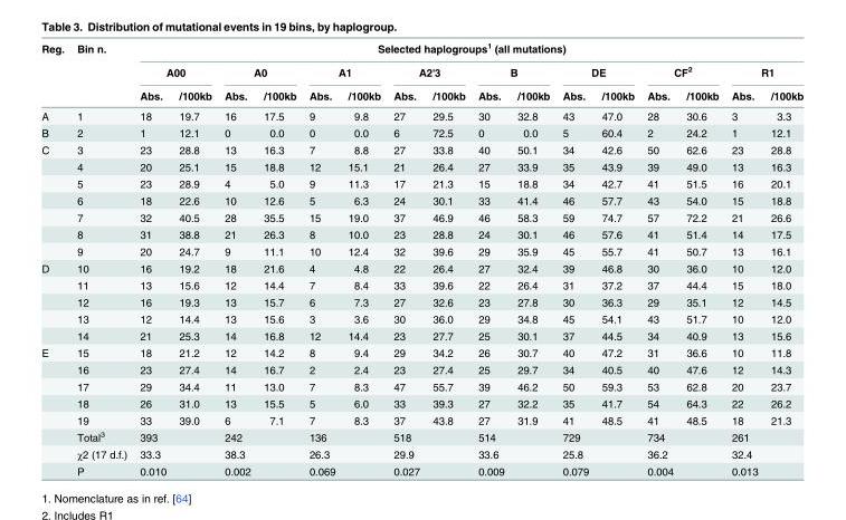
<table><thead><tr><td rowspan="3">Reg.</td><td rowspan="3">Bin n.</td><td colspan="16">Selected haplogroups<sup>1</sup> (all mutations)</td></tr><tr><td colspan="2">A00</td><td colspan="2">A0</td><td colspan="2">A1</td><td colspan="2">A2&#x27;3</td><td colspan="2">B</td><td colspan="2">DE</td><td colspan="2">CF<sup>2</sup></td><td colspan="2">R1</td></tr><tr><td>Abs.</td><td>/100kb</td><td>Abs.</td><td>/100kb</td><td>Abs.</td><td>/100kb</td><td>Abs.</td><td>/100kb</td><td>Abs.</td><td>/100kb</td><td>Abs.</td><td>/100kb</td><td>Abs.</td><td>/100kb</td><td>Abs.</td><td>/100kb</td></tr></thead><tbody><tr><td>A</td><td>1</td><td>18</td><td>19.7</td><td>16</td><td>17.5</td><td>9</td><td>9.8</td><td>27</td><td>29.5</td><td>30</td><td>32.8</td><td>43</td><td>47.0</td><td>28</td><td>30.6</td><td>3</td><td>3.3</td></tr><tr><td>B</td><td>2</td><td>1</td><td>12.1</td><td>0</td><td>0.0</td><td>0</td><td>0.0</td><td>6</td><td>72.5</td><td>0</td><td>0.0</td><td>5</td><td>60.4</td><td>2</td><td>24.2</td><td>1</td><td>12.1</td></tr><tr><td rowspan="7">C</td><td>3</td><td>23</td><td>28.8</td><td>13</td><td>16.3</td><td>7</td><td>8.8</td><td>27</td><td>33.8</td><td>40</td><td>50.1</td><td>34</td><td>42.6</td><td>50</td><td>62.6</td><td>23</td><td>28.8</td></tr><tr><td>4</td><td>20</td><td>25.1</td><td>15</td><td>18.8</td><td>12</td><td>15.1</td><td>21</td><td>26.4</td><td>27</td><td>33.9</td><td>35</td><td>43.9</td><td>39</td><td>49.0</td><td>13</td><td>16.3</td></tr><tr><td>5</td><td>23</td><td>28.9</td><td>4</td><td>5.0</td><td>9</td><td>11.3</td><td>17</td><td>21.3</td><td>15</td><td>18.8</td><td>34</td><td>42.7</td><td>41</td><td>51.5</td><td>16</td><td>20.1</td></tr><tr><td>6</td><td>18</td><td>22.6</td><td>10</td><td>12.6</td><td>5</td><td>6.3</td><td>24</td><td>30.1</td><td>33</td><td>41.4</td><td>46</td><td>57.7</td><td>43</td><td>54.0</td><td>15</td><td>18.8</td></tr><tr><td>7</td><td>32</td><td>40.5</td><td>28</td><td>35.5</td><td>15</td><td>19.0</td><td>37</td><td>46.9</td><td>46</td><td>58.3</td><td>59</td><td>74.7</td><td>57</td><td>72.2</td><td>21</td><td>26.6</td></tr><tr><td>8</td><td>31</td><td>38.8</td><td>21</td><td>26.3</td><td>8</td><td>10.0</td><td>23</td><td>28.8</td><td>24</td><td>30.1</td><td>46</td><td>57.6</td><td>41</td><td>51.4</td><td>14</td><td>17.5</td></tr><tr><td>9</td><td>20</td><td>24.7</td><td>9</td><td>11.1</td><td>10</td><td>12.4</td><td>32</td><td>39.6</td><td>29</td><td>35.9</td><td>45</td><td>55.7</td><td>41</td><td>50.7</td><td>13</td><td>16.1</td></tr><tr><td rowspan="5">D</td><td>10</td><td>16</td><td>19.2</td><td>18</td><td>21.6</td><td>4</td><td>4.8</td><td>22</td><td>26.4</td><td>27</td><td>32.4</td><td>39</td><td>46.8</td><td>30</td><td>36.0</td><td>10</td><td>12.0</td></tr><tr><td>11</td><td>13</td><td>15.6</td><td>12</td><td>14.4</td><td>7</td><td>8.4</td><td>33</td><td>39.6</td><td>22</td><td>26.4</td><td>31</td><td>37.2</td><td>37</td><td>44.4</td><td>15</td><td>18.0</td></tr><tr><td>12</td><td>16</td><td>19.3</td><td>13</td><td>15.7</td><td>6</td><td>7.3</td><td>27</td><td>32.6</td><td>23</td><td>27.8</td><td>30</td><td>36.3</td><td>29</td><td>35.1</td><td>12</td><td>14.5</td></tr><tr><td>13</td><td>12</td><td>14.4</td><td>13</td><td>15.6</td><td>3</td><td>3.6</td><td>30</td><td>36.0</td><td>29</td><td>34.8</td><td>45</td><td>54.1</td><td>43</td><td>51.7</td><td>10</td><td>12.0</td></tr><tr><td>14</td><td>21</td><td>25.3</td><td>14</td><td>16.8</td><td>12</td><td>14.4</td><td>23</td><td>27.7</td><td>25</td><td>30.1</td><td>37</td><td>44.5</td><td>34</td><td>40.9</td><td>13</td><td>15.6</td></tr><tr><td rowspan="8">E</td><td>15</td><td>18</td><td>21.2</td><td>12</td><td>14.2</td><td>8</td><td>9.4</td><td>29</td><td>34.2</td><td>26</td><td>30.7</td><td>40</td><td>47.2</td><td>31</td><td>36.6</td><td>10</td><td>11.8</td></tr><tr><td>16</td><td>23</td><td>27.4</td><td>14</td><td>16.7</td><td>2</td><td>2.4</td><td>23</td><td>27.4</td><td>25</td><td>29.7</td><td>34</td><td>40.5</td><td>40</td><td>47.6</td><td>12</td><td>14.3</td></tr><tr><td>17</td><td>29</td><td>34.4</td><td>11</td><td>13.0</td><td>7</td><td>8.3</td><td>47</td><td>55.7</td><td>39</td><td>46.2</td><td>50</td><td>59.3</td><td>53</td><td>62.8</td><td>20</td><td>23.7</td></tr><tr><td>18</td><td>26</td><td>31.0</td><td>13</td><td>15.5</td><td>5</td><td>6.0</td><td>33</td><td>39.3</td><td>27</td><td>32.2</td><td>35</td><td>41.7</td><td>54</td><td>64.3</td><td>22</td><td>26.2</td></tr><tr><td>19</td><td>33</td><td>39.0</td><td>6</td><td>7.1</td><td>7</td><td>8.3</td><td>37</td><td>43.8</td><td>27</td><td>31.9</td><td>41</td><td>48.5</td><td>41</td><td>48.5</td><td>18</td><td>21.3</td></tr><tr><td>Total<sup>3</sup></td><td>393</td><td></td><td>242</td><td></td><td>136</td><td></td><td>518</td><td></td><td>514</td><td></td><td>729</td><td></td><td>734</td><td></td><td>261</td><td></td></tr><tr><td>χ2 (17 d.f.)</td><td>33.3</td><td></td><td>38.3</td><td></td><td>26.3</td><td></td><td>29.9</td><td></td><td>33.6</td><td></td><td>25.8</td><td></td><td>36.2</td><td></td><td>32.4</td><td></td></tr><tr><td>P</td><td>0.010</td><td></td><td>0.002</td><td></td><td>0.069</td><td></td><td>0.027</td><td></td><td>0.009</td><td></td><td>0.079</td><td></td><td>0.004</td><td></td><td>0.013</td><td></td></tr></tbody></table>